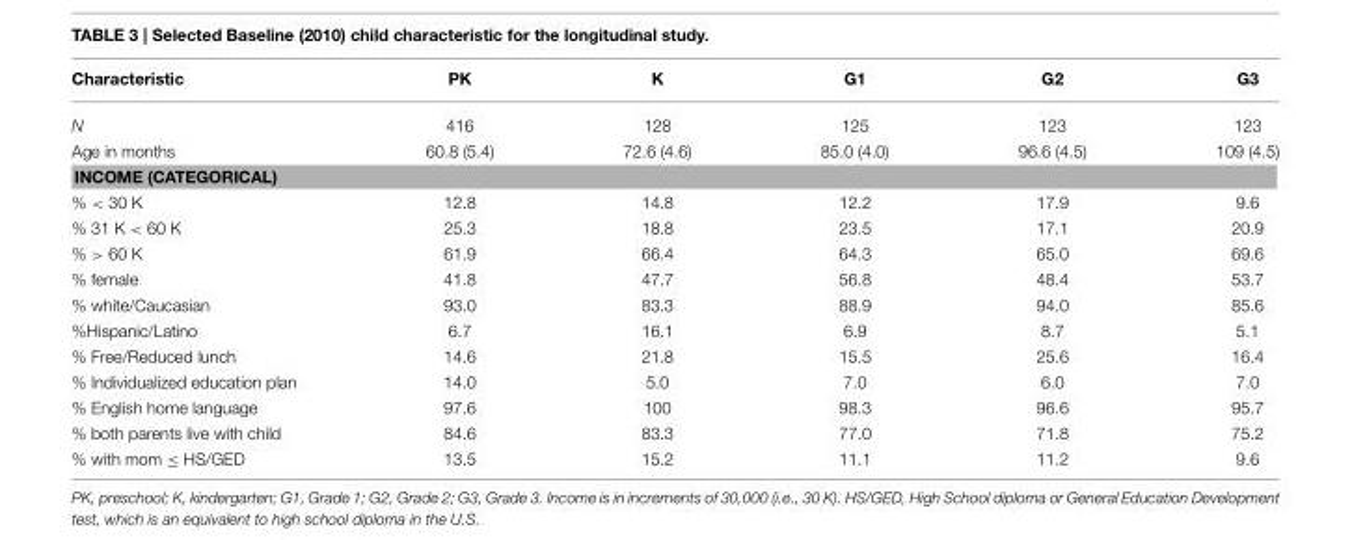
<table><thead><tr><td>Characteristic</td><td>PK</td><td>K</td><td>G1</td><td>G2</td><td>G3</td></tr></thead><tbody><tr><td>N</td><td>416</td><td>128</td><td>125</td><td>123</td><td>123</td></tr><tr><td>Age in months</td><td>60.8 (5.4)</td><td>72.6 (4.6)</td><td>85.0 (4.0)</td><td>96.6 (4.5)</td><td>109 (4.5)</td></tr><tr><td colspan="6">INCOME (CATEGORICAL)</td></tr><tr><td>% &lt; 30 K</td><td>12.8</td><td>14.8</td><td>12.2</td><td>17.9</td><td>9.6</td></tr><tr><td>% 31 K &lt; 60 K</td><td>25.3</td><td>18.8</td><td>23.5</td><td>17.1</td><td>20.9</td></tr><tr><td>% &gt; 60 K</td><td>61.9</td><td>66.4</td><td>64.3</td><td>65.0</td><td>69.6</td></tr><tr><td>% female</td><td>41.8</td><td>47.7</td><td>56.8</td><td>48.4</td><td>53.7</td></tr><tr><td>% white/Caucasian</td><td>93.0</td><td>83.3</td><td>88.9</td><td>94.0</td><td>85.6</td></tr><tr><td>%Hispanic/Latino</td><td>6.7</td><td>16.1</td><td>6.9</td><td>8.7</td><td>5.1</td></tr><tr><td>% Free/Reduced lunch</td><td>14.6</td><td>21.8</td><td>15.5</td><td>25.6</td><td>16.4</td></tr><tr><td>% Individualized education plan</td><td>14.0</td><td>5.0</td><td>7.0</td><td>6.0</td><td>7.0</td></tr><tr><td>% English home language</td><td>97.6</td><td>100</td><td>98.3</td><td>96.6</td><td>95.7</td></tr><tr><td>% both parents live with child</td><td>84.6</td><td>83.3</td><td>77.0</td><td>71.8</td><td>75.2</td></tr><tr><td>% with mom ≤ HS/GED</td><td>13.5</td><td>15.2</td><td>11.1</td><td>11.2</td><td>9.6</td></tr></tbody></table>